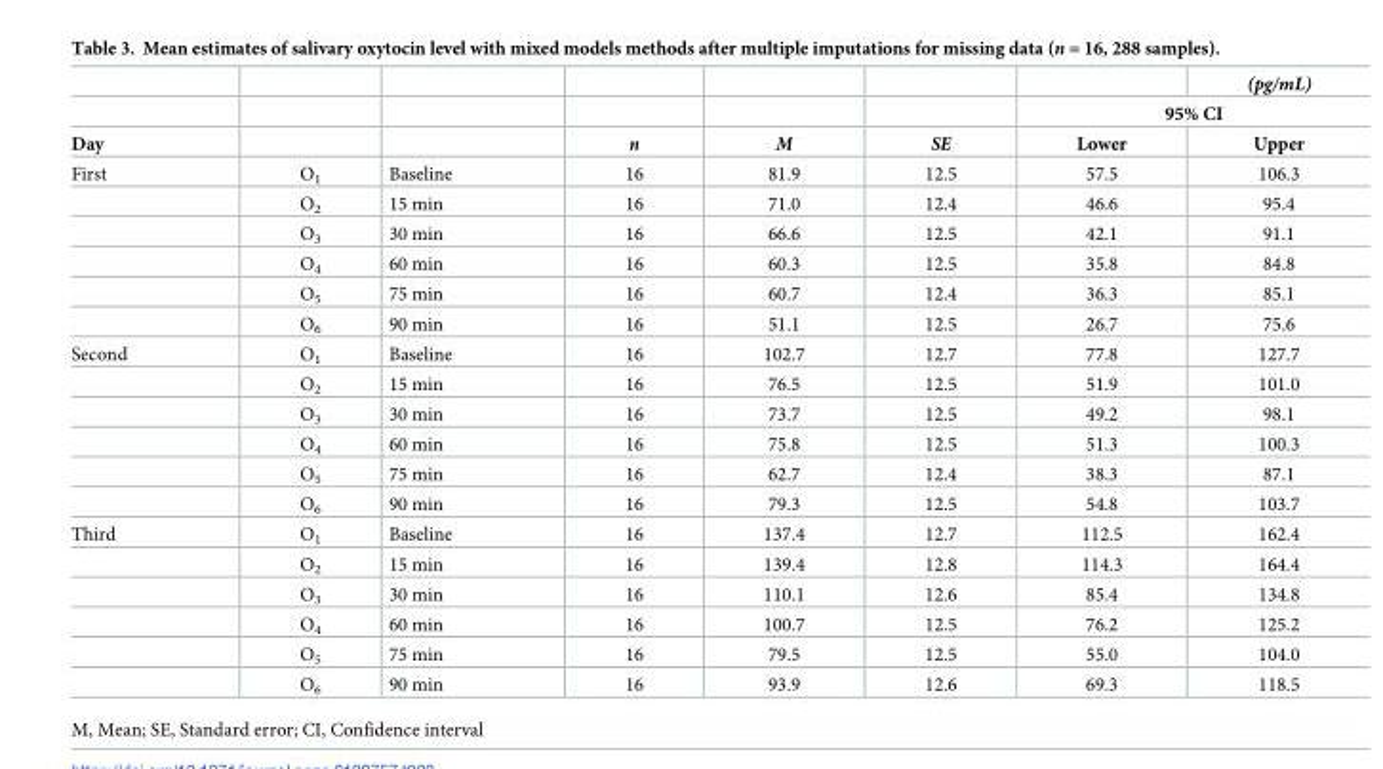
<table><thead><tr><td rowspan="3">Day</td><td rowspan="3"></td><td rowspan="3"></td><td rowspan="3">n</td><td rowspan="3">M</td><td rowspan="3">SE</td><td></td><td>(pg/mL)</td></tr><tr><td colspan="2">95% CI</td></tr><tr><td>Lower</td><td>Upper</td></tr></thead><tbody><tr><td rowspan="6">First</td><td>O<sub>1</sub></td><td>Baseline</td><td>16</td><td>81.9</td><td>12.5</td><td>57.5</td><td>106.3</td></tr><tr><td>O<sub>2</sub></td><td>15 min</td><td>16</td><td>71.0</td><td>12.4</td><td>46.6</td><td>95.4</td></tr><tr><td>O<sub>3</sub></td><td>30 min</td><td>16</td><td>66.6</td><td>12.5</td><td>42.1</td><td>91.1</td></tr><tr><td>O<sub>4</sub></td><td>60 min</td><td>16</td><td>60.3</td><td>12.5</td><td>35.8</td><td>84.8</td></tr><tr><td>O<sub>5</sub></td><td>75 min</td><td>16</td><td>60.7</td><td>12.4</td><td>36.3</td><td>85.1</td></tr><tr><td>O<sub>6</sub></td><td>90 min</td><td>16</td><td>51.1</td><td>12.5</td><td>26.7</td><td>75.6</td></tr><tr><td rowspan="6">Second</td><td>O<sub>1</sub></td><td>Baseline</td><td>16</td><td>102.7</td><td>12.7</td><td>77.8</td><td>127.7</td></tr><tr><td>O<sub>2</sub></td><td>15 min</td><td>16</td><td>76.5</td><td>12.5</td><td>51.9</td><td>101.0</td></tr><tr><td>O<sub>3</sub></td><td>30 min</td><td>16</td><td>73.7</td><td>12.5</td><td>49.2</td><td>98.1</td></tr><tr><td>O<sub>4</sub></td><td>60 min</td><td>16</td><td>75.8</td><td>12.5</td><td>51.3</td><td>100.3</td></tr><tr><td>O<sub>5</sub></td><td>75 min</td><td>16</td><td>62.7</td><td>12.4</td><td>38.3</td><td>87.1</td></tr><tr><td>O<sub>6</sub></td><td>90 min</td><td>16</td><td>79.3</td><td>12.5</td><td>54.8</td><td>103.7</td></tr><tr><td rowspan="6">Third</td><td>O<sub>1</sub></td><td>Baseline</td><td>16</td><td>137.4</td><td>12.7</td><td>112.5</td><td>162.4</td></tr><tr><td>O<sub>2</sub></td><td>15 min</td><td>16</td><td>139.4</td><td>12.8</td><td>114.3</td><td>164.4</td></tr><tr><td>O<sub>3</sub></td><td>30 min</td><td>16</td><td>110.1</td><td>12.6</td><td>85.4</td><td>134.8</td></tr><tr><td>O<sub>4</sub></td><td>60 min</td><td>16</td><td>100.7</td><td>12.5</td><td>76.2</td><td>125.2</td></tr><tr><td>O<sub>5</sub></td><td>75 min</td><td>16</td><td>79.5</td><td>12.5</td><td>55.0</td><td>104.0</td></tr><tr><td>O<sub>6</sub></td><td>90 min</td><td>16</td><td>93.9</td><td>12.6</td><td>69.3</td><td>118.5</td></tr></tbody></table>